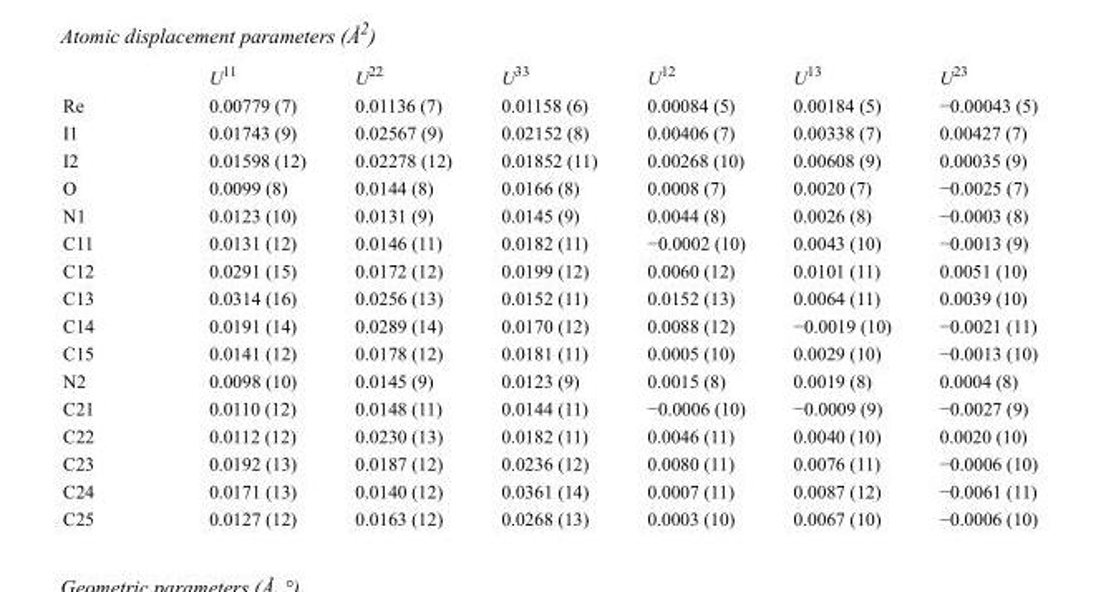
<table><thead><tr><td></td><td>U<sup>11</sup></td><td>U<sup>22</sup></td><td>U<sup>33</sup></td><td>U<sup>12</sup></td><td>U<sup>13</sup></td><td>U<sup>23</sup></td></tr></thead><tbody><tr><td>Re</td><td>0.00779 (7)</td><td>0.01136 (7)</td><td>0.01158 (6)</td><td>0.00084 (5)</td><td>0.00184 (5)</td><td>−0.00043 (5)</td></tr><tr><td>I1</td><td>0.01743 (9)</td><td>0.02567 (9)</td><td>0.02152 (8)</td><td>0.00406 (7)</td><td>0.00338 (7)</td><td>0.00427 (7)</td></tr><tr><td>I2</td><td>0.01598 (12)</td><td>0.02278 (12)</td><td>0.01852 (11)</td><td>0.00268 (10)</td><td>0.00608 (9)</td><td>0.00035 (9)</td></tr><tr><td>O</td><td>0.0099 (8)</td><td>0.0144 (8)</td><td>0.0166 (8)</td><td>0.0008 (7)</td><td>0.0020 (7)</td><td>−0.0025 (7)</td></tr><tr><td>N1</td><td>0.0123 (10)</td><td>0.0131 (9)</td><td>0.0145 (9)</td><td>0.0044 (8)</td><td>0.0026 (8)</td><td>−0.0003 (8)</td></tr><tr><td>C11</td><td>0.0131 (12)</td><td>0.0146 (11)</td><td>0.0182 (11)</td><td>−0.0002 (10)</td><td>0.0043 (10)</td><td>−0.0013 (9)</td></tr><tr><td>C12</td><td>0.0291 (15)</td><td>0.0172 (12)</td><td>0.0199 (12)</td><td>0.0060 (12)</td><td>0.0101 (11)</td><td>0.0051 (10)</td></tr><tr><td>C13</td><td>0.0314 (16)</td><td>0.0256 (13)</td><td>0.0152 (11)</td><td>0.0152 (13)</td><td>0.0064 (11)</td><td>0.0039 (10)</td></tr><tr><td>C14</td><td>0.0191 (14)</td><td>0.0289 (14)</td><td>0.0170 (12)</td><td>0.0088 (12)</td><td>−0.0019 (10)</td><td>−0.0021 (11)</td></tr><tr><td>C15</td><td>0.0141 (12)</td><td>0.0178 (12)</td><td>0.0181 (11)</td><td>0.0005 (10)</td><td>0.0029 (10)</td><td>−0.0013 (10)</td></tr><tr><td>N2</td><td>0.0098 (10)</td><td>0.0145 (9)</td><td>0.0123 (9)</td><td>0.0015 (8)</td><td>0.0019 (8)</td><td>0.0004 (8)</td></tr><tr><td>C21</td><td>0.0110 (12)</td><td>0.0148 (11)</td><td>0.0144 (11)</td><td>−0.0006 (10)</td><td>−0.0009 (9)</td><td>−0.0027 (9)</td></tr><tr><td>C22</td><td>0.0112 (12)</td><td>0.0230 (13)</td><td>0.0182 (11)</td><td>0.0046 (11)</td><td>0.0040 (10)</td><td>0.0020 (10)</td></tr><tr><td>C23</td><td>0.0192 (13)</td><td>0.0187 (12)</td><td>0.0236 (12)</td><td>0.0080 (11)</td><td>0.0076 (11)</td><td>−0.0006 (10)</td></tr><tr><td>C24</td><td>0.0171 (13)</td><td>0.0140 (12)</td><td>0.0361 (14)</td><td>0.0007 (11)</td><td>0.0087 (12)</td><td>−0.0061 (11)</td></tr><tr><td>C25</td><td>0.0127 (12)</td><td>0.0163 (12)</td><td>0.0268 (13)</td><td>0.0003 (10)</td><td>0.0067 (10)</td><td>−0.0006 (10)</td></tr></tbody></table>